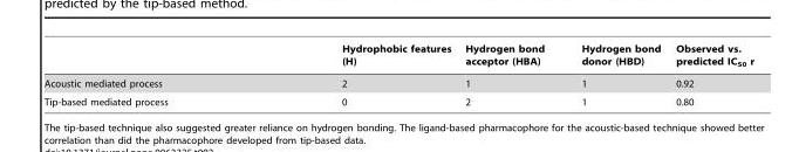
<table><thead><tr><td></td><td>Hydrophobic features (H)</td><td>Hydrogen bond acceptor (HBA)</td><td>Hydrogen bond donor (HBD)</td><td>Observed vs. predicted IC<sub>50</sub> r</td></tr></thead><tbody><tr><td>Acoustic mediated process</td><td>2</td><td>1</td><td>1</td><td>0.92</td></tr><tr><td>Tip-based mediated process</td><td>0</td><td>2</td><td>1</td><td>0.80</td></tr></tbody></table>